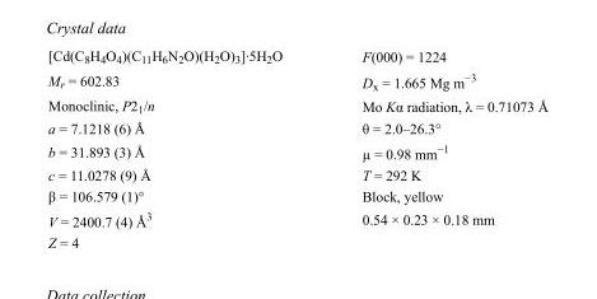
<table><tbody><tr><td>[Cd(C<sub>8</sub>H<sub>4</sub>O<sub>4</sub>)(C<sub>11</sub>H<sub>6</sub>N<sub>2</sub>O)(H<sub>2</sub>O)<sub>3</sub>]·5H<sub>2</sub>O</td><td>F(000) = 1224</td></tr><tr><td>M<sub>r</sub> = 602.83</td><td>D<sub>x</sub> = 1.665 Mg m<sup>−3</sup></td></tr><tr><td>Monoclinic, P2<sub>1</sub>/n</td><td>Mo Kα radiation, λ = 0.71073 Å</td></tr><tr><td>a = 7.1218 (6) Å</td><td>θ = 2.0–26.3°</td></tr><tr><td>b = 31.893 (3) Å</td><td>µ = 0.98 mm<sup>−1</sup></td></tr><tr><td>c = 11.0278 (9) Å</td><td>T = 292 K</td></tr><tr><td>β = 106.579 (1)°</td><td>Block, yellow</td></tr><tr><td>V = 2400.7 (4) Å<sup>3</sup></td><td>0.54 × 0.23 × 0.18 mm</td></tr><tr><td>Z = 4</td><td></td></tr></tbody></table>